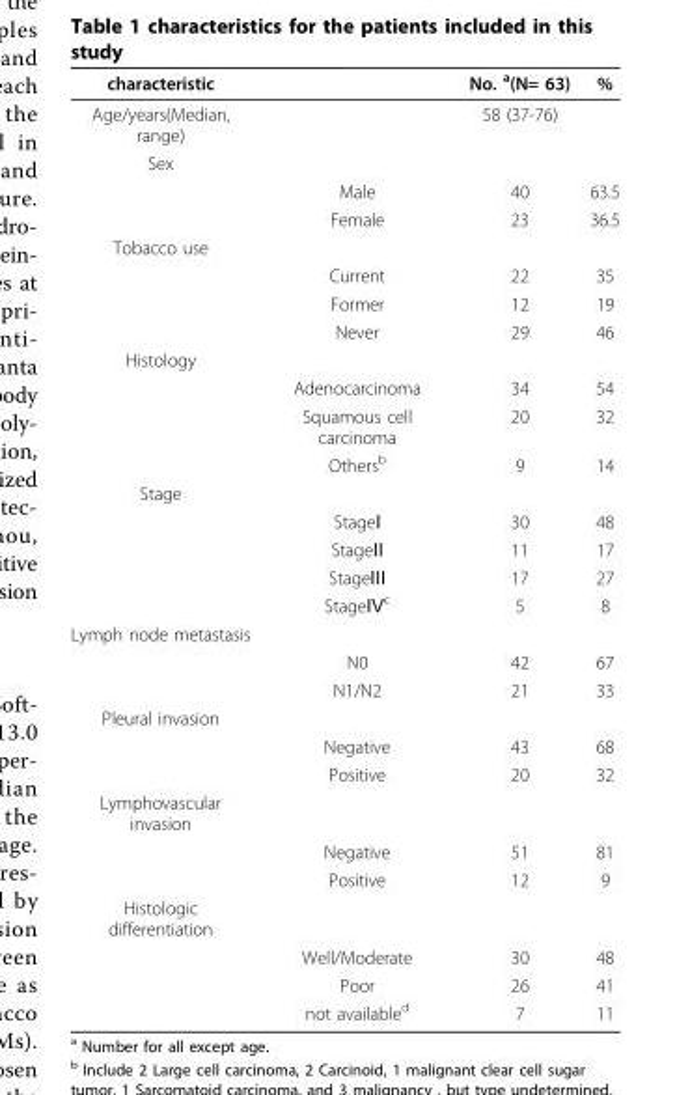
<table><thead><tr><td>characteristic</td><td></td><td>No. <sup>a</sup>(N= 63)</td><td>%</td></tr></thead><tbody><tr><td>Age/years(Median, range)</td><td></td><td>58 (37-76)</td><td></td></tr><tr><td colspan="4">Sex</td></tr><tr><td></td><td>Male</td><td>40</td><td>63.5</td></tr><tr><td></td><td>Female</td><td>23</td><td>36.5</td></tr><tr><td colspan="4">Tobacco use</td></tr><tr><td></td><td>Current</td><td>22</td><td>35</td></tr><tr><td></td><td>Former</td><td>12</td><td>19</td></tr><tr><td></td><td>Never</td><td>29</td><td>46</td></tr><tr><td colspan="4">Histology</td></tr><tr><td></td><td>Adenocarcinoma</td><td>34</td><td>54</td></tr><tr><td></td><td>Squamous cell carcinoma</td><td>20</td><td>32</td></tr><tr><td></td><td>Others<sup>b</sup></td><td>9</td><td>14</td></tr><tr><td colspan="4">Stage</td></tr><tr><td></td><td>StageⅠ</td><td>30</td><td>48</td></tr><tr><td></td><td>StageⅡ</td><td>11</td><td>17</td></tr><tr><td></td><td>StageⅢ</td><td>17</td><td>27</td></tr><tr><td></td><td>StageⅣ<sup>c</sup></td><td>5</td><td>8</td></tr><tr><td colspan="4">Lymph node metastasis</td></tr><tr><td></td><td>N0</td><td>42</td><td>67</td></tr><tr><td></td><td>N1/N2</td><td>21</td><td>33</td></tr><tr><td colspan="4">Pleural invasion</td></tr><tr><td></td><td>Negative</td><td>43</td><td>68</td></tr><tr><td></td><td>Positive</td><td>20</td><td>32</td></tr><tr><td colspan="4">Lymphovascular invasion</td></tr><tr><td></td><td>Negative</td><td>51</td><td>81</td></tr><tr><td></td><td>Positive</td><td>12</td><td>9</td></tr><tr><td colspan="4">Histologic differentiation</td></tr><tr><td></td><td>Well/Moderate</td><td>30</td><td>48</td></tr><tr><td></td><td>Poor</td><td>26</td><td>41</td></tr><tr><td></td><td>not available<sup>d</sup></td><td>7</td><td>11</td></tr></tbody></table>